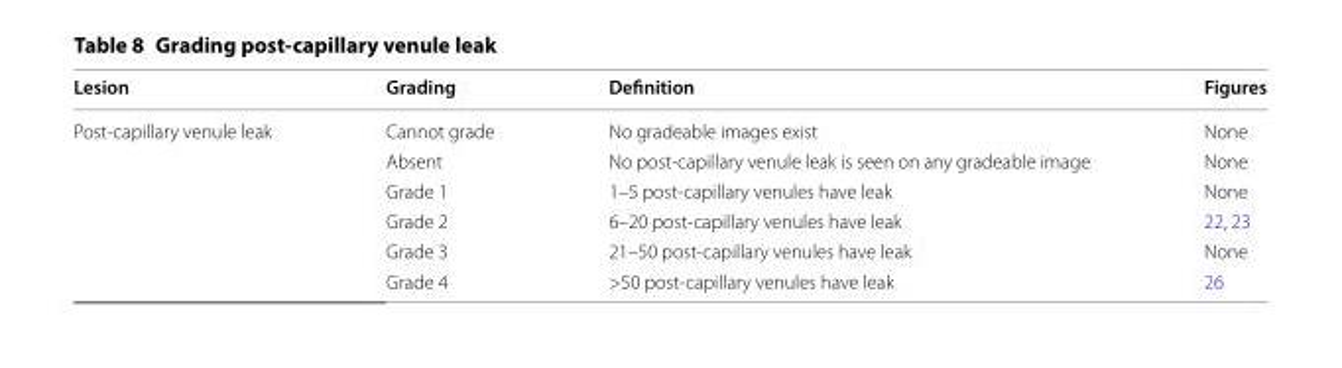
<table><thead><tr><td>Lesion</td><td>Grading</td><td>Definition</td><td>Figures</td></tr></thead><tbody><tr><td rowspan="6">Post-capillary venule leak</td><td>Cannot grade</td><td>No gradeable images exist</td><td>None</td></tr><tr><td>Absent</td><td>No post-capillary venule leak is seen on any gradeable image</td><td>None</td></tr><tr><td>Grade 1</td><td>1–5 post-capillary venules have leak</td><td>None</td></tr><tr><td>Grade 2</td><td>6–20 post-capillary venules have leak</td><td>22, 23</td></tr><tr><td>Grade 3</td><td>21–50 post-capillary venules have leak</td><td>None</td></tr><tr><td>Grade 4</td><td>&gt;50 post-capillary venules have leak</td><td>26</td></tr></tbody></table>